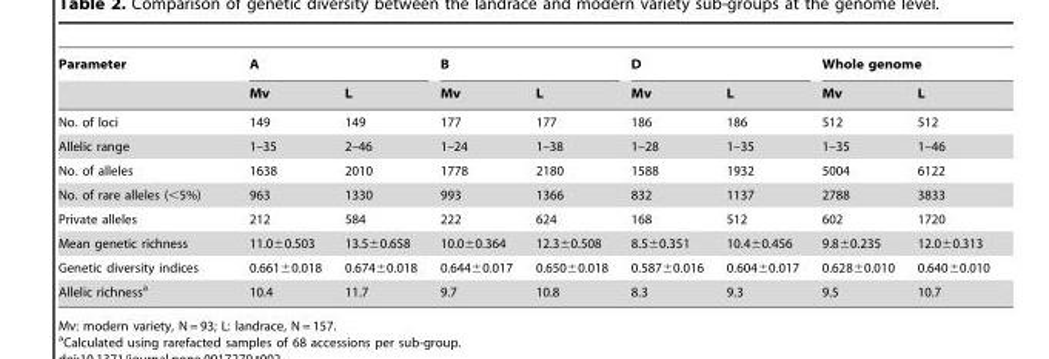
<table><thead><tr><td rowspan="2">Parameter</td><td colspan="2">A</td><td colspan="2">B</td><td colspan="2">D</td><td colspan="2">Whole genome</td></tr><tr><td>Mv</td><td>L</td><td>Mv</td><td>L</td><td>Mv</td><td>L</td><td>Mv</td><td>L</td></tr></thead><tbody><tr><td>No. of loci</td><td>149</td><td>149</td><td>177</td><td>177</td><td>186</td><td>186</td><td>512</td><td>512</td></tr><tr><td>Allelic range</td><td>1–35</td><td>2–46</td><td>1–24</td><td>1–38</td><td>1–28</td><td>1–35</td><td>1–35</td><td>1–46</td></tr><tr><td>No. of alleles</td><td>1638</td><td>2010</td><td>1778</td><td>2180</td><td>1588</td><td>1932</td><td>5004</td><td>6122</td></tr><tr><td>No. of rare alleles (&lt;5%)</td><td>963</td><td>1330</td><td>993</td><td>1366</td><td>832</td><td>1137</td><td>2788</td><td>3833</td></tr><tr><td>Private alleles</td><td>212</td><td>584</td><td>222</td><td>624</td><td>168</td><td>512</td><td>602</td><td>1720</td></tr><tr><td>Mean genetic richness</td><td>11.0±0.503</td><td>13.5±0.658</td><td>10.0±0.364</td><td>12.3±0.508</td><td>8.5±0.351</td><td>10.4±0.456</td><td>9.8±0.235</td><td>12.0±0.313</td></tr><tr><td>Genetic diversity indices</td><td>0.661±0.018</td><td>0.674±0.018</td><td>0.644±0.017</td><td>0.650±0.018</td><td>0.587±0.016</td><td>0.604±0.017</td><td>0.628±0.010</td><td>0.640±0.010</td></tr><tr><td>Allelic richness<sup>a</sup></td><td>10.4</td><td>11.7</td><td>9.7</td><td>10.8</td><td>8.3</td><td>9.3</td><td>9.5</td><td>10.7</td></tr></tbody></table>